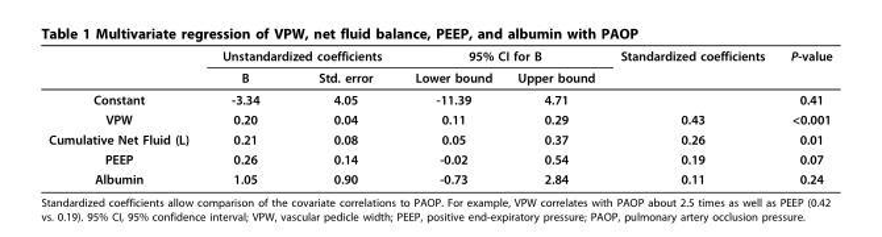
<table><thead><tr><td rowspan="2"></td><td colspan="2">Unstandardized coefficients</td><td colspan="2">95% CI for B</td><td rowspan="2">Standardized coefficients</td><td rowspan="2">P-value</td></tr><tr><td>B</td><td>Std. error</td><td>Lower bound</td><td>Upper bound</td></tr></thead><tbody><tr><td>Constant</td><td>-3.34</td><td>4.05</td><td>-11.39</td><td>4.71</td><td></td><td>0.41</td></tr><tr><td>VPW</td><td>0.20</td><td>0.04</td><td>0.11</td><td>0.29</td><td>0.43</td><td>&lt;0.001</td></tr><tr><td>Cumulative Net Fluid (L)</td><td>0.21</td><td>0.08</td><td>0.05</td><td>0.37</td><td>0.26</td><td>0.01</td></tr><tr><td>PEEP</td><td>0.26</td><td>0.14</td><td>-0.02</td><td>0.54</td><td>0.19</td><td>0.07</td></tr><tr><td>Albumin</td><td>1.05</td><td>0.90</td><td>-0.73</td><td>2.84</td><td>0.11</td><td>0.24</td></tr></tbody></table>